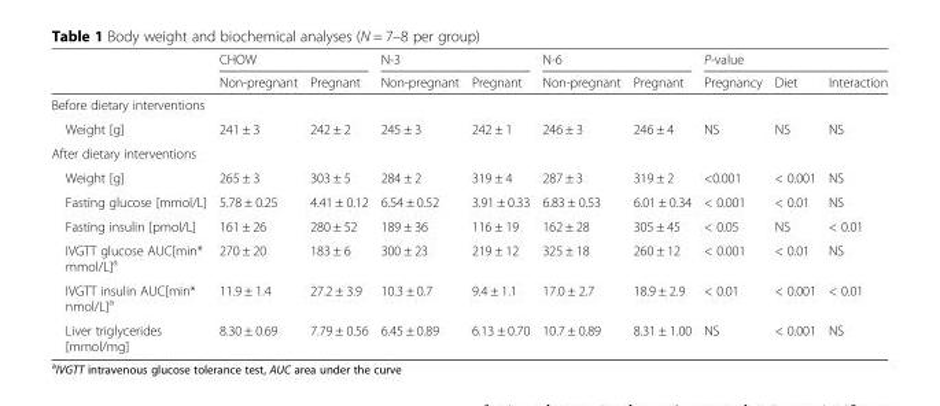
<table><thead><tr><td rowspan="2"></td><td colspan="2">CHOW</td><td colspan="2">N-3</td><td colspan="2">N-6</td><td colspan="3">P-value</td></tr><tr><td>Non-pregnant</td><td>Pregnant</td><td>Non-pregnant</td><td>Pregnant</td><td>Non-pregnant</td><td>Pregnant</td><td>Pregnancy</td><td>Diet</td><td>Interaction</td></tr></thead><tbody><tr><td colspan="10">Before dietary interventions</td></tr><tr><td>Weight [g]</td><td>241 ± 3</td><td>242 ± 2</td><td>245 ± 3</td><td>242 ± 1</td><td>246 ± 3</td><td>246 ± 4</td><td>NS</td><td>NS</td><td>NS</td></tr><tr><td colspan="10">After dietary interventions</td></tr><tr><td>Weight [g]</td><td>265 ± 3</td><td>303 ± 5</td><td>284 ± 2</td><td>319 ± 4</td><td>287 ± 3</td><td>319 ± 2</td><td>&lt;0.001</td><td>&lt; 0.001</td><td>NS</td></tr><tr><td>Fasting glucose [mmol/L]</td><td>5.78 ± 0.25</td><td>4.41 ± 0.12</td><td>6.54 ± 0.52</td><td>3.91 ± 0.33</td><td>6.83 ± 0.53</td><td>6.01 ± 0.34</td><td>&lt; 0.001</td><td>&lt; 0.01</td><td>NS</td></tr><tr><td>Fasting insulin [pmol/L]</td><td>161 ± 26</td><td>280 ± 52</td><td>189 ± 36</td><td>116 ± 19</td><td>162 ± 28</td><td>305 ± 45</td><td>&lt; 0.05</td><td>NS</td><td>&lt; 0.01</td></tr><tr><td>IVGTT glucose AUC[min* mmol/L]<sup>a</sup></td><td>270 ± 20</td><td>183 ± 6</td><td>300 ± 23</td><td>219 ± 12</td><td>325 ± 18</td><td>260 ± 12</td><td>&lt; 0.001</td><td>&lt; 0.01</td><td>NS</td></tr><tr><td>IVGTT insulin AUC[min* nmol/L]<sup>a</sup></td><td>11.9 ± 1.4</td><td>27.2 ± 3.9</td><td>10.3 ± 0.7</td><td>9.4 ± 1.1</td><td>17.0 ± 2.7</td><td>18.9 ± 2.9</td><td>&lt; 0.01</td><td>&lt; 0.001</td><td>&lt; 0.01</td></tr><tr><td>Liver triglycerides [mmol/mg]</td><td>8.30 ± 0.69</td><td>7.79 ± 0.56</td><td>6.45 ± 0.89</td><td>6.13 ± 0.70</td><td>10.7 ± 0.89</td><td>8.31 ± 1.00</td><td>NS</td><td>&lt; 0.001</td><td>NS</td></tr></tbody></table>